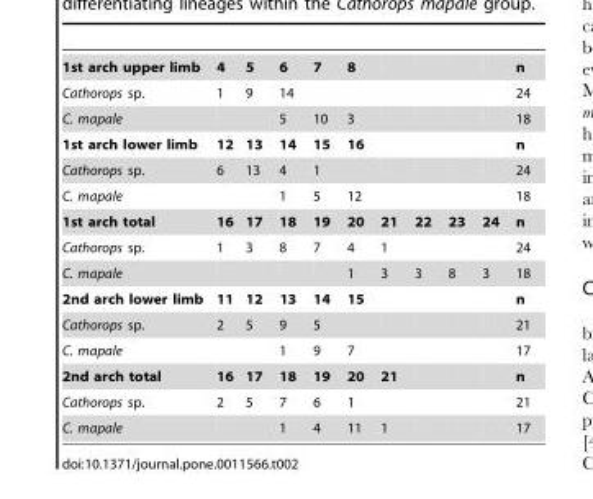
<table><tbody><tr><td>1st arch upper limb</td><td>4</td><td>5</td><td>6</td><td>7</td><td>8</td><td></td><td></td><td></td><td></td><td>n</td></tr><tr><td>Cathorops sp.</td><td>1</td><td>9</td><td>14</td><td></td><td></td><td></td><td></td><td></td><td></td><td>24</td></tr><tr><td>C. mapale</td><td></td><td></td><td>5</td><td>10</td><td>3</td><td></td><td></td><td></td><td></td><td>18</td></tr><tr><td>1st arch lower limb</td><td>12</td><td>13</td><td>14</td><td>15</td><td>16</td><td></td><td></td><td></td><td></td><td>n</td></tr><tr><td>Cathorops sp.</td><td>6</td><td>13</td><td>4</td><td>1</td><td></td><td></td><td></td><td></td><td></td><td>24</td></tr><tr><td>C. mapale</td><td></td><td></td><td>1</td><td>5</td><td>12</td><td></td><td></td><td></td><td></td><td>18</td></tr><tr><td>1st arch total</td><td>16</td><td>17</td><td>18</td><td>19</td><td>20</td><td>21</td><td>22</td><td>23</td><td>24</td><td>n</td></tr><tr><td>Cathorops sp.</td><td>1</td><td>3</td><td>8</td><td>7</td><td>4</td><td>1</td><td></td><td></td><td></td><td>24</td></tr><tr><td>C. mapale</td><td></td><td></td><td></td><td></td><td>1</td><td>3</td><td>3</td><td>8</td><td>3</td><td>18</td></tr><tr><td>2nd arch lower limb</td><td>11</td><td>12</td><td>13</td><td>14</td><td>15</td><td></td><td></td><td></td><td></td><td>n</td></tr><tr><td>Cathorops sp.</td><td>2</td><td>5</td><td>9</td><td>5</td><td></td><td></td><td></td><td></td><td></td><td>21</td></tr><tr><td>C. mapale</td><td></td><td></td><td>1</td><td>9</td><td>7</td><td></td><td></td><td></td><td></td><td>17</td></tr><tr><td>2nd arch total</td><td>16</td><td>17</td><td>18</td><td>19</td><td>20</td><td>21</td><td></td><td></td><td></td><td>n</td></tr><tr><td>Cathorops sp.</td><td>2</td><td>5</td><td>7</td><td>6</td><td>1</td><td></td><td></td><td></td><td></td><td>21</td></tr><tr><td>C. mapale</td><td></td><td></td><td>1</td><td>4</td><td>11</td><td>1</td><td></td><td></td><td></td><td>17</td></tr></tbody></table>